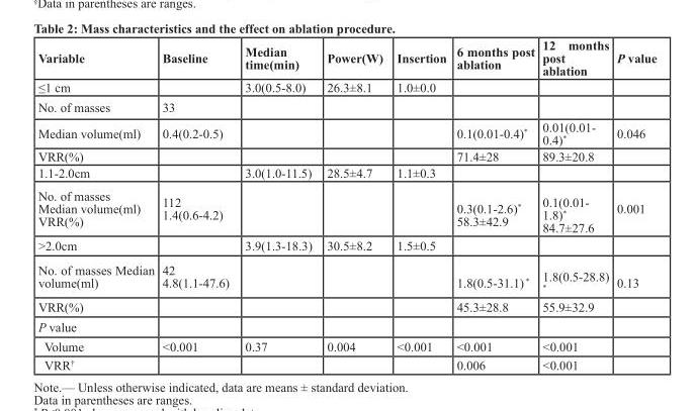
<table><thead><tr><td>Variable</td><td>Baseline</td><td>Median time(min)</td><td>Power(W)</td><td>Insertion</td><td>6 months post ablation</td><td>12 months post ablation</td><td>P value</td></tr></thead><tbody><tr><td>≤1 cm</td><td></td><td>3.0(0.5-8.0)</td><td>26.3±8.1</td><td>1.0±0.0</td><td></td><td></td><td></td></tr><tr><td>No. of masses</td><td>33</td><td></td><td></td><td></td><td></td><td></td><td></td></tr><tr><td>Median volume(ml)</td><td>0.4(0.2-0.5)</td><td></td><td></td><td></td><td>0.1(0.01-0.4)*</td><td>0.01(0.01- 0.4)*</td><td>0.046</td></tr><tr><td>VRR(%)</td><td></td><td></td><td></td><td></td><td>71.4±28</td><td>89.3±20.8</td><td></td></tr><tr><td>1.1-2.0cm</td><td></td><td>3.0(1.0-11.5)</td><td>28.5±4.7</td><td>1.1±0.3</td><td></td><td></td><td></td></tr><tr><td>No. of masses Median volume(ml) VRR(%)</td><td>112 1.4(0.6-4.2)</td><td></td><td></td><td></td><td>0.3(0.1-2.6)* 58.3±42.9</td><td>0.1(0.01- 1.8)* 84.7±27.6</td><td>0.001</td></tr><tr><td>&gt;2.0cm</td><td></td><td>3.9(1.3-18.3)</td><td>30.5±8.2</td><td>1.5±0.5</td><td></td><td></td><td></td></tr><tr><td>No. of masses Median volume(ml)</td><td>42 4.8(1.1-47.6)</td><td></td><td></td><td></td><td>1.8(0.5-31.1) *</td><td>1.8(0.5-28.8) *</td><td>0.13</td></tr><tr><td>VRR(%)</td><td></td><td></td><td></td><td></td><td>45.3±28.8</td><td>55.9±32.9</td><td></td></tr><tr><td colspan="8">P value</td></tr><tr><td>Volume</td><td>&lt;0.001</td><td>0.37</td><td>0.004</td><td>&lt;0.001</td><td>&lt;0.001</td><td>&lt;0.001</td><td></td></tr><tr><td>VRR<sup>†</sup></td><td></td><td></td><td></td><td></td><td>0.006</td><td>&lt;0.001</td><td></td></tr></tbody></table>